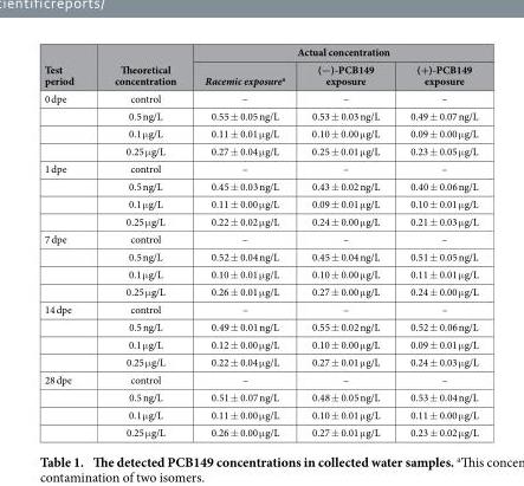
<table><thead><tr><td rowspan="2">Test period</td><td rowspan="2">Theoretical concentration</td><td colspan="3">Actual concentration</td></tr><tr><td>Racemic exposure<sup>a</sup></td><td>(−)-PCB149 exposure</td><td>(+)-PCB149 exposure</td></tr></thead><tbody><tr><td rowspan="4">0 dpe</td><td>control</td><td>–</td><td>–</td><td>–</td></tr><tr><td>0.5 ng/L</td><td>0.55 ± 0.05 ng/L</td><td>0.53 ± 0.03 ng/L</td><td>0.49 ± 0.07 ng/L</td></tr><tr><td>0.1 μ g/L</td><td>0.11 ± 0.01 μ g/L</td><td>0.10 ± 0.00 μ g/L</td><td>0.09 ± 0.00 μ g/L</td></tr><tr><td>0.25 μ g/L</td><td>0.27 ± 0.04 μ g/L</td><td>0.25 ± 0.01 μ g/L</td><td>0.23 ± 0.05 μ g/L</td></tr><tr><td rowspan="4">1 dpe</td><td>control</td><td>–</td><td>–</td><td>–</td></tr><tr><td>0.5 ng/L</td><td>0.45 ± 0.03 ng/L</td><td>0.43 ± 0.02 ng/L</td><td>0.40 ± 0.06 ng/L</td></tr><tr><td>0.1 μ g/L</td><td>0.11 ± 0.00 μ g/L</td><td>0.09 ± 0.01 μ g/L</td><td>0.10 ± 0.01 μ g/L</td></tr><tr><td>0.25 μ g/L</td><td>0.22 ± 0.02 μ g/L</td><td>0.24 ± 0.00 μ g/L</td><td>0.21 ± 0.03 μ g/L</td></tr><tr><td rowspan="4">7 dpe</td><td>control</td><td>–</td><td>–</td><td>–</td></tr><tr><td>0.5 ng/L</td><td>0.52 ± 0.04 ng/L</td><td>0.45 ± 0.04 ng/L</td><td>0.51 ± 0.05 ng/L</td></tr><tr><td>0.1 μ g/L</td><td>0.10 ± 0.01 μ g/L</td><td>0.10 ± 0.00 μ g/L</td><td>0.11 ± 0.01 μ g/L</td></tr><tr><td>0.25 μ g/L</td><td>0.26 ± 0.01 μ g/L</td><td>0.27 ± 0.00 μ g/L</td><td>0.24 ± 0.00 μ g/L</td></tr><tr><td rowspan="4">14 dpe</td><td>control</td><td>–</td><td>–</td><td>–</td></tr><tr><td>0.5 ng/L</td><td>0.49 ± 0.01 ng/L</td><td>0.55 ± 0.02 ng/L</td><td>0.52 ± 0.06 ng/L</td></tr><tr><td>0.1 μ g/L</td><td>0.12 ± 0.00 μ g/L</td><td>0.10 ± 0.00 μ g/L</td><td>0.09 ± 0.01 μ g/L</td></tr><tr><td>0.25 μ g/L</td><td>0.22 ± 0.04 μ g/L</td><td>0.27 ± 0.01 μ g/L</td><td>0.24 ± 0.03 μ g/L</td></tr><tr><td rowspan="4">28 dpe</td><td>control</td><td>–</td><td>–</td><td>–</td></tr><tr><td>0.5 ng/L</td><td>0.51 ± 0.07 ng/L</td><td>0.48 ± 0.05 ng/L</td><td>0.53 ± 0.04 ng/L</td></tr><tr><td>0.1 μ g/L</td><td>0.11 ± 0.00 μ g/L</td><td>0.10 ± 0.01 μ g/L</td><td>0.11 ± 0.00 μ g/L</td></tr><tr><td>0.25 μ g/L</td><td>0.26 ± 0.00 μ g/L</td><td>0.27 ± 0.01 μ g/L</td><td>0.23 ± 0.02 μ g/L</td></tr></tbody></table>